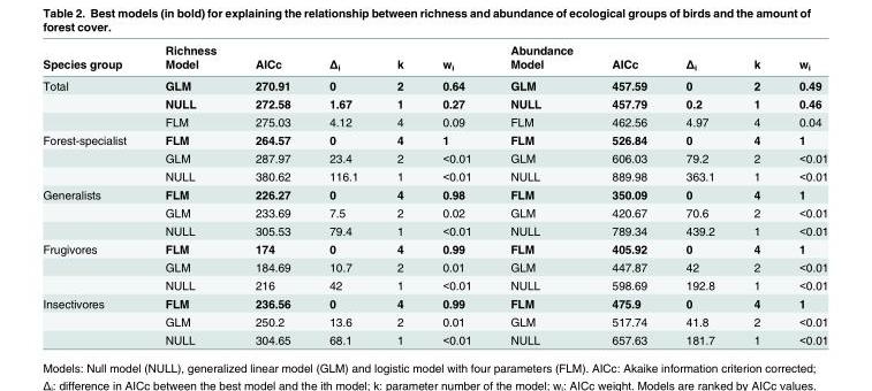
<table><thead><tr><td rowspan="2">Species group</td><td rowspan="2">Richness Model</td><td rowspan="2">AICc</td><td rowspan="2">Δ<sub>i</sub></td><td rowspan="2">k</td><td rowspan="2">w<sub>i</sub></td><td rowspan="2">Abundance Model</td><td rowspan="2">AICc</td><td rowspan="2">Δ<sub>i</sub></td><td rowspan="2">k</td><td rowspan="2">w<sub>i</sub></td></tr><tr></tr></thead><tbody><tr><td rowspan="3">Total</td><td>GLM</td><td>270.91</td><td>0</td><td>2</td><td>0.64</td><td>GLM</td><td>457.59</td><td>0</td><td>2</td><td>0.49</td></tr><tr><td>NULL</td><td>272.58</td><td>1.67</td><td>1</td><td>0.27</td><td>NULL</td><td>457.79</td><td>0.2</td><td>1</td><td>0.46</td></tr><tr><td>FLM</td><td>275.03</td><td>4.12</td><td>4</td><td>0.09</td><td>FLM</td><td>462.56</td><td>4.97</td><td>4</td><td>0.04</td></tr><tr><td rowspan="3">Forest-specialist</td><td>FLM</td><td>264.57</td><td>0</td><td>4</td><td>1</td><td>FLM</td><td>526.84</td><td>0</td><td>4</td><td>1</td></tr><tr><td>GLM</td><td>287.97</td><td>23.4</td><td>2</td><td>&lt;0.01</td><td>GLM</td><td>606.03</td><td>79.2</td><td>2</td><td>&lt;0.01</td></tr><tr><td>NULL</td><td>380.62</td><td>116.1</td><td>1</td><td>&lt;0.01</td><td>NULL</td><td>889.98</td><td>363.1</td><td>1</td><td>&lt;0.01</td></tr><tr><td rowspan="3">Generalists</td><td>FLM</td><td>226.27</td><td>0</td><td>4</td><td>0.98</td><td>FLM</td><td>350.09</td><td>0</td><td>4</td><td>1</td></tr><tr><td>GLM</td><td>233.69</td><td>7.5</td><td>2</td><td>0.02</td><td>GLM</td><td>420.67</td><td>70.6</td><td>2</td><td>&lt;0.01</td></tr><tr><td>NULL</td><td>305.53</td><td>79.4</td><td>1</td><td>&lt;0.01</td><td>NULL</td><td>789.34</td><td>439.2</td><td>1</td><td>&lt;0.01</td></tr><tr><td rowspan="3">Frugivores</td><td>FLM</td><td>174</td><td>0</td><td>4</td><td>0.99</td><td>FLM</td><td>405.92</td><td>0</td><td>4</td><td>1</td></tr><tr><td>GLM</td><td>184.69</td><td>10.7</td><td>2</td><td>0.01</td><td>GLM</td><td>447.87</td><td>42</td><td>2</td><td>&lt;0.01</td></tr><tr><td>NULL</td><td>216</td><td>42</td><td>1</td><td>&lt;0.01</td><td>NULL</td><td>598.69</td><td>192.8</td><td>1</td><td>&lt;0.01</td></tr><tr><td rowspan="3">Insectivores</td><td>FLM</td><td>236.56</td><td>0</td><td>4</td><td>0.99</td><td>FLM</td><td>475.9</td><td>0</td><td>4</td><td>1</td></tr><tr><td>GLM</td><td>250.2</td><td>13.6</td><td>2</td><td>0.01</td><td>GLM</td><td>517.74</td><td>41.8</td><td>2</td><td>&lt;0.01</td></tr><tr><td>NULL</td><td>304.65</td><td>68.1</td><td>1</td><td>&lt;0.01</td><td>NULL</td><td>657.63</td><td>181.7</td><td>1</td><td>&lt;0.01</td></tr></tbody></table>